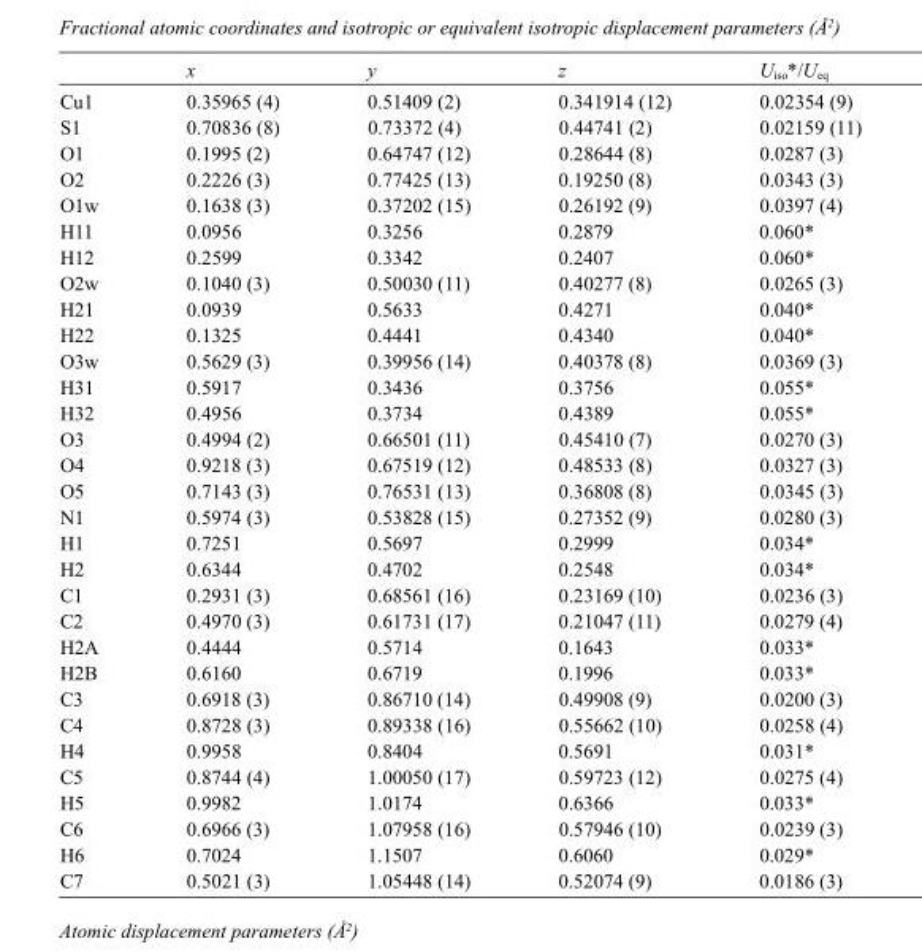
<table><thead><tr><td></td><td>x</td><td>y</td><td>z</td><td>U<sub>iso</sub>*/U<sub>eq</sub></td></tr></thead><tbody><tr><td>Cu1</td><td>0.35965 (4)</td><td>0.51409 (2)</td><td>0.341914 (12)</td><td>0.02354 (9)</td></tr><tr><td>S1</td><td>0.70836 (8)</td><td>0.73372 (4)</td><td>0.44741 (2)</td><td>0.02159 (11)</td></tr><tr><td>O1</td><td>0.1995 (2)</td><td>0.64747 (12)</td><td>0.28644 (8)</td><td>0.0287 (3)</td></tr><tr><td>O2</td><td>0.2226 (3)</td><td>0.77425 (13)</td><td>0.19250 (8)</td><td>0.0343 (3)</td></tr><tr><td>O1w</td><td>0.1638 (3)</td><td>0.37202 (15)</td><td>0.26192 (9)</td><td>0.0397 (4)</td></tr><tr><td>H11</td><td>0.0956</td><td>0.3256</td><td>0.2879</td><td>0.060*</td></tr><tr><td>H12</td><td>0.2599</td><td>0.3342</td><td>0.2407</td><td>0.060*</td></tr><tr><td>O2w</td><td>0.1040 (3)</td><td>0.50030 (11)</td><td>0.40277 (8)</td><td>0.0265 (3)</td></tr><tr><td>H21</td><td>0.0939</td><td>0.5633</td><td>0.4271</td><td>0.040*</td></tr><tr><td>H22</td><td>0.1325</td><td>0.4441</td><td>0.4340</td><td>0.040*</td></tr><tr><td>O3w</td><td>0.5629 (3)</td><td>0.39956 (14)</td><td>0.40378 (8)</td><td>0.0369 (3)</td></tr><tr><td>H31</td><td>0.5917</td><td>0.3436</td><td>0.3756</td><td>0.055*</td></tr><tr><td>H32</td><td>0.4956</td><td>0.3734</td><td>0.4389</td><td>0.055*</td></tr><tr><td>O3</td><td>0.4994 (2)</td><td>0.66501 (11)</td><td>0.45410 (7)</td><td>0.0270 (3)</td></tr><tr><td>O4</td><td>0.9218 (3)</td><td>0.67519 (12)</td><td>0.48533 (8)</td><td>0.0327 (3)</td></tr><tr><td>O5</td><td>0.7143 (3)</td><td>0.76531 (13)</td><td>0.36808 (8)</td><td>0.0345 (3)</td></tr><tr><td>N1</td><td>0.5974 (3)</td><td>0.53828 (15)</td><td>0.27352 (9)</td><td>0.0280 (3)</td></tr><tr><td>H1</td><td>0.7251</td><td>0.5697</td><td>0.2999</td><td>0.034*</td></tr><tr><td>H2</td><td>0.6344</td><td>0.4702</td><td>0.2548</td><td>0.034*</td></tr><tr><td>C1</td><td>0.2931 (3)</td><td>0.68561 (16)</td><td>0.23169 (10)</td><td>0.0236 (3)</td></tr><tr><td>C2</td><td>0.4970 (3)</td><td>0.61731 (17)</td><td>0.21047 (11)</td><td>0.0279 (4)</td></tr><tr><td>H2A</td><td>0.4444</td><td>0.5714</td><td>0.1643</td><td>0.033*</td></tr><tr><td>H2B</td><td>0.6160</td><td>0.6719</td><td>0.1996</td><td>0.033*</td></tr><tr><td>C3</td><td>0.6918 (3)</td><td>0.86710 (14)</td><td>0.49908 (9)</td><td>0.0200 (3)</td></tr><tr><td>C4</td><td>0.8728 (3)</td><td>0.89338 (16)</td><td>0.55662 (10)</td><td>0.0258 (4)</td></tr><tr><td>H4</td><td>0.9958</td><td>0.8404</td><td>0.5691</td><td>0.031*</td></tr><tr><td>C5</td><td>0.8744 (4)</td><td>1.00050 (17)</td><td>0.59723 (12)</td><td>0.0275 (4)</td></tr><tr><td>H5</td><td>0.9982</td><td>1.0174</td><td>0.6366</td><td>0.033*</td></tr><tr><td>C6</td><td>0.6966 (3)</td><td>1.07958 (16)</td><td>0.57946 (10)</td><td>0.0239 (3)</td></tr><tr><td>H6</td><td>0.7024</td><td>1.1507</td><td>0.6060</td><td>0.029*</td></tr><tr><td>C7</td><td>0.5021 (3)</td><td>1.05448 (14)</td><td>0.52074 (9)</td><td>0.0186 (3)</td></tr></tbody></table>